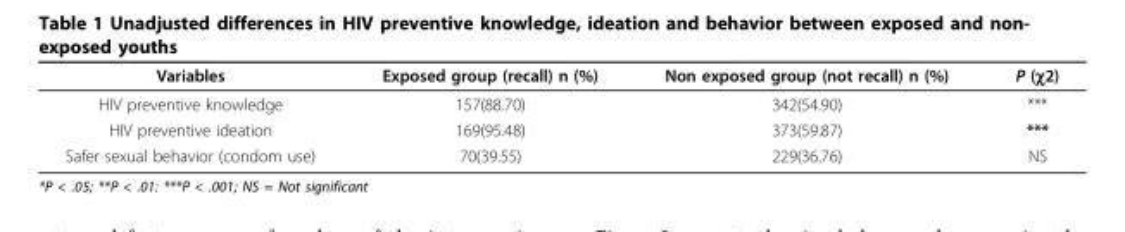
<table><thead><tr><td>Variables</td><td>Exposed group (recall) n (%)</td><td>Non exposed group (not recall) n (%)</td><td>P (χ2)</td></tr></thead><tbody><tr><td>HIV preventive knowledge</td><td>157(88.70)</td><td>342(54.90)</td><td>***</td></tr><tr><td>HIV preventive ideation</td><td>169(95.48)</td><td>373(59.87)</td><td>***</td></tr><tr><td>Safer sexual behavior (condom use)</td><td>70(39.55)</td><td>229(36.76)</td><td>NS</td></tr></tbody></table>